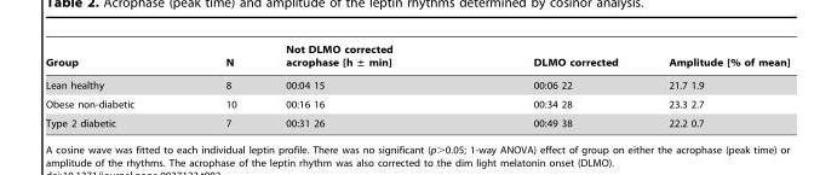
<table><thead><tr><td>Group</td><td>N</td><td>Not DLMO corrected acrophase [h ± min]</td><td>DLMO corrected</td><td>Amplitude [% of mean]</td></tr></thead><tbody><tr><td>Lean healthy</td><td>8</td><td>00:04 15</td><td>00:06 22</td><td>21.7 1.9</td></tr><tr><td>Obese non-diabetic</td><td>10</td><td>00:16 16</td><td>00:34 28</td><td>23.3 2.7</td></tr><tr><td>Type 2 diabetic</td><td>7</td><td>00:31 26</td><td>00:49 38</td><td>22.2 0.7</td></tr></tbody></table>